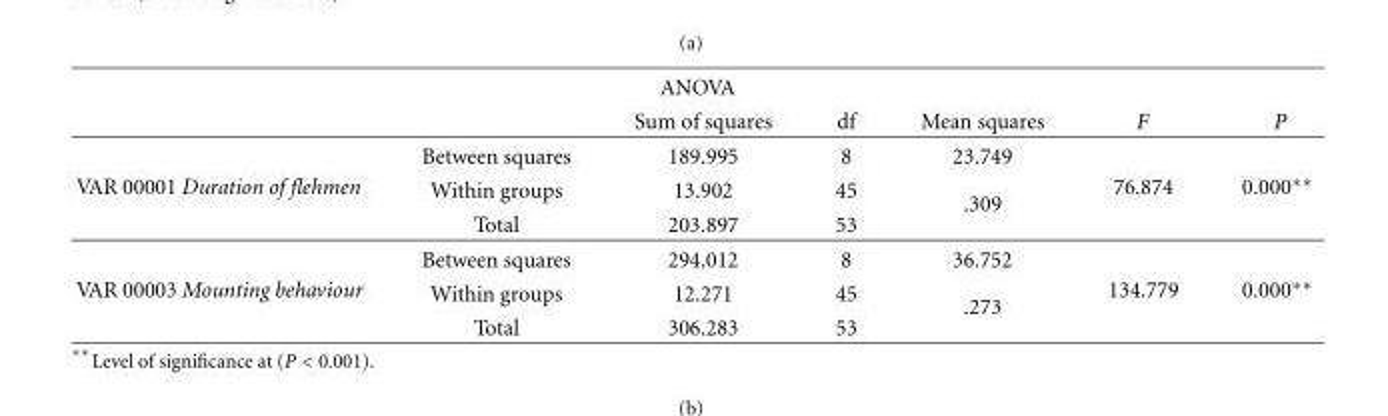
<table><tbody><tr><td colspan="7">ANOVA</td></tr><tr><td></td><td></td><td>Sum of squares</td><td>df</td><td>Mean squares</td><td>F</td><td>P</td></tr><tr><td rowspan="3">VAR 00001 Duration of flehmen</td><td>Between squares</td><td>189.995</td><td>8</td><td>23.749</td><td rowspan="3">76.874</td><td rowspan="3">0.000∗∗</td></tr><tr><td>Within groups</td><td>13.902</td><td>45</td><td rowspan="2">.309</td></tr><tr><td>Total</td><td>203.897</td><td>53</td></tr><tr><td rowspan="3">VAR 00003 Mounting behaviour</td><td>Between squares</td><td>294.012</td><td>8</td><td>36.752</td><td rowspan="3">134.779</td><td rowspan="3">0.000∗∗</td></tr><tr><td>Within groups</td><td>12.271</td><td>45</td><td rowspan="2">.273</td></tr><tr><td>Total</td><td>306.283</td><td>53</td></tr></tbody></table>